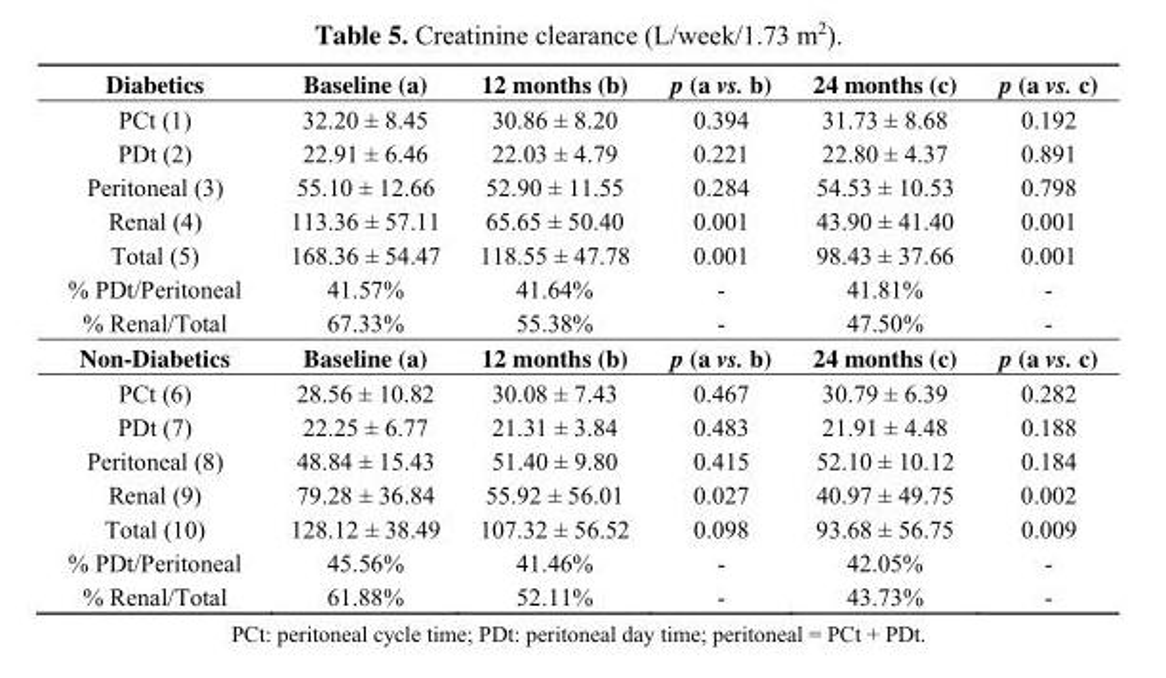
<table><tbody><tr><td>Diabetics</td><td>Baseline (a)</td><td>12 months (b)</td><td>p (a vs. b)</td><td>24 months (c)</td><td>p (a vs. c)</td></tr><tr><td>PCt (1)</td><td>32.20 ± 8.45</td><td>30.86 ± 8.20</td><td>0.394</td><td>31.73 ± 8.68</td><td>0.192</td></tr><tr><td>PDt (2)</td><td>22.91 ± 6.46</td><td>22.03 ± 4.79</td><td>0.221</td><td>22.80 ± 4.37</td><td>0.891</td></tr><tr><td>Peritoneal (3)</td><td>55.10 ± 12.66</td><td>52.90 ± 11.55</td><td>0.284</td><td>54.53 ± 10.53</td><td>0.798</td></tr><tr><td>Renal (4)</td><td>113.36 ± 57.11</td><td>65.65 ± 50.40</td><td>0.001</td><td>43.90 ± 41.40</td><td>0.001</td></tr><tr><td>Total (5)</td><td>168.36 ± 54.47</td><td>118.55 ± 47.78</td><td>0.001</td><td>98.43 ± 37.66</td><td>0.001</td></tr><tr><td>% PDt/Peritoneal</td><td>41.57%</td><td>41.64%</td><td>-</td><td>41.81%</td><td>-</td></tr><tr><td>% Renal/Total</td><td>67.33%</td><td>55.38%</td><td>-</td><td>47.50%</td><td>-</td></tr><tr><td>Non-Diabetics</td><td>Baseline (a)</td><td>12 months (b)</td><td>p (a vs. b)</td><td>24 months (c)</td><td>p (a vs. c)</td></tr><tr><td>PCt (6)</td><td>28.56 ± 10.82</td><td>30.08 ± 7.43</td><td>0.467</td><td>30.79 ± 6.39</td><td>0.282</td></tr><tr><td>PDt (7)</td><td>22.25 ± 6.77</td><td>21.31 ± 3.84</td><td>0.483</td><td>21.91 ± 4.48</td><td>0.188</td></tr><tr><td>Peritoneal (8)</td><td>48.84 ± 15.43</td><td>51.40 ± 9.80</td><td>0.415</td><td>52.10 ± 10.12</td><td>0.184</td></tr><tr><td>Renal (9)</td><td>79.28 ± 36.84</td><td>55.92 ± 56.01</td><td>0.027</td><td>40.97 ± 49.75</td><td>0.002</td></tr><tr><td>Total (10)</td><td>128.12 ± 38.49</td><td>107.32 ± 56.52</td><td>0.098</td><td>93.68 ± 56.75</td><td>0.009</td></tr><tr><td>% PDt/Peritoneal</td><td>45.56%</td><td>41.46%</td><td>-</td><td>42.05%</td><td>-</td></tr><tr><td>% Renal/Total</td><td>61.88%</td><td>52.11%</td><td>-</td><td>43.73%</td><td>-</td></tr></tbody></table>